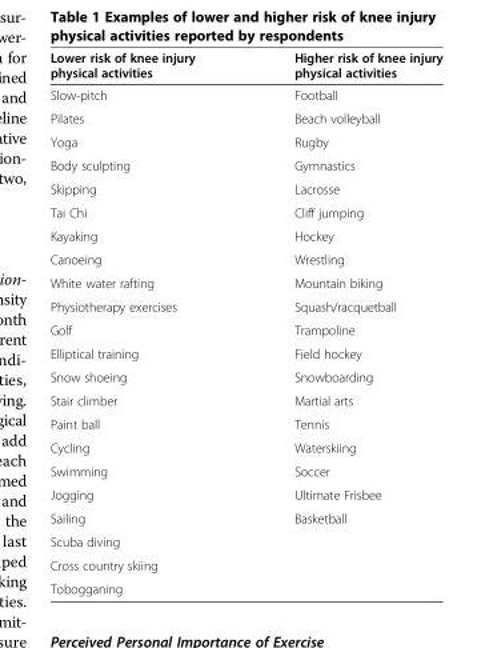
<table><thead><tr><td>Lower risk of knee injury physical activities</td><td>Higher risk of knee injury physical activities</td></tr></thead><tbody><tr><td>Slow-pitch</td><td>Football</td></tr><tr><td>Pilates</td><td>Beach volleyball</td></tr><tr><td>Yoga</td><td>Rugby</td></tr><tr><td>Body sculpting</td><td>Gymnastics</td></tr><tr><td>Skipping</td><td>Lacrosse</td></tr><tr><td>Tai Chi</td><td>Cliff jumping</td></tr><tr><td>Kayaking</td><td>Hockey</td></tr><tr><td>Canoeing</td><td>Wrestling</td></tr><tr><td>White water rafting</td><td>Mountain biking</td></tr><tr><td>Physiotherapy exercises</td><td>Squash/racquetball</td></tr><tr><td>Golf</td><td>Trampoline</td></tr><tr><td>Elliptical training</td><td>Field hockey</td></tr><tr><td>Snow shoeing</td><td>Snowboarding</td></tr><tr><td>Stair climber</td><td>Martial arts</td></tr><tr><td>Paint ball</td><td>Tennis</td></tr><tr><td>Cycling</td><td>Waterskiing</td></tr><tr><td>Swimming</td><td>Soccer</td></tr><tr><td>Jogging</td><td>Ultimate Frisbee</td></tr><tr><td>Sailing</td><td rowspan="4">Basketball</td></tr><tr><td>Scuba diving</td></tr><tr><td>Cross country skiing</td></tr><tr><td>Tobogganing</td></tr></tbody></table>